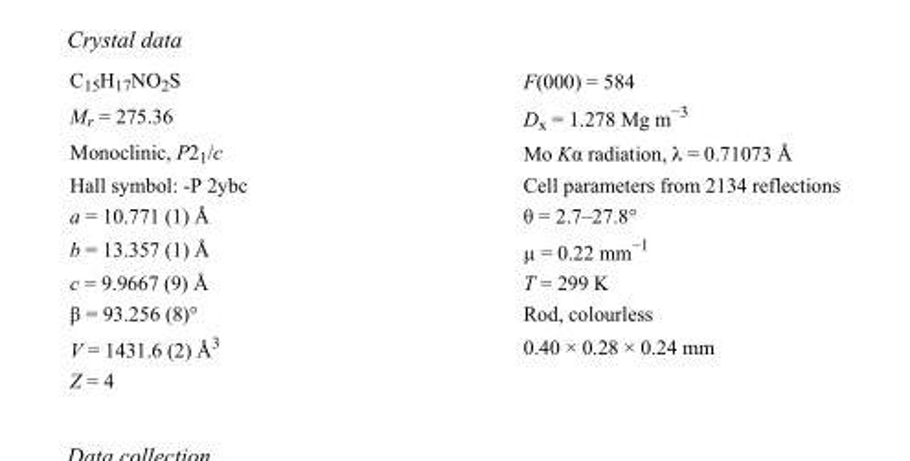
<table><tbody><tr><td>C<sub>15</sub>H<sub>17</sub>NO<sub>2</sub>S</td><td>F(000) = 584</td></tr><tr><td>M<sub>r</sub> = 275.36</td><td>D<sub>x</sub> = 1.278 Mg m<sup>−3</sup></td></tr><tr><td>Monoclinic, P2<sub>1</sub>/c</td><td>Mo Kα radiation, λ = 0.71073 Å</td></tr><tr><td>Hall symbol: -P 2ybc</td><td>Cell parameters from 2134 reflections</td></tr><tr><td>a = 10.771 (1) Å</td><td>θ = 2.7–27.8°</td></tr><tr><td>b = 13.357 (1) Å</td><td>µ = 0.22 mm<sup>−1</sup></td></tr><tr><td>c = 9.9667 (9) Å</td><td>T = 299 K</td></tr><tr><td>β = 93.256 (8)°</td><td>Rod, colourless</td></tr><tr><td>V = 1431.6 (2) Å<sup>3</sup></td><td>0.40 × 0.28 × 0.24 mm</td></tr><tr><td>Z = 4</td><td></td></tr></tbody></table>